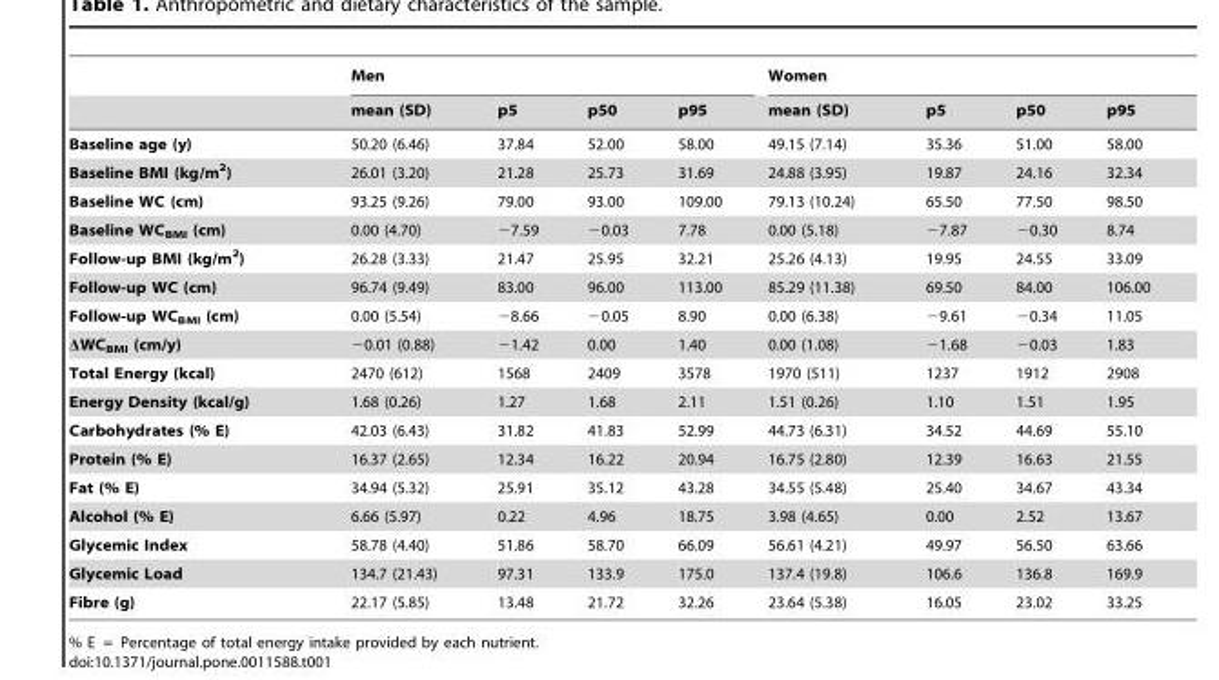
<table><thead><tr><td rowspan="2"></td><td colspan="4">Men</td><td colspan="4">Women</td></tr><tr><td>mean (SD)</td><td>p5</td><td>p50</td><td>p95</td><td>mean (SD)</td><td>p5</td><td>p50</td><td>p95</td></tr></thead><tbody><tr><td>Baseline age (y)</td><td>50.20 (6.46)</td><td>37.84</td><td>52.00</td><td>58.00</td><td>49.15 (7.14)</td><td>35.36</td><td>51.00</td><td>58.00</td></tr><tr><td>Baseline BMI (kg/m<sup>2</sup>)</td><td>26.01 (3.20)</td><td>21.28</td><td>25.73</td><td>31.69</td><td>24.88 (3.95)</td><td>19.87</td><td>24.16</td><td>32.34</td></tr><tr><td>Baseline WC (cm)</td><td>93.25 (9.26)</td><td>79.00</td><td>93.00</td><td>109.00</td><td>79.13 (10.24)</td><td>65.50</td><td>77.50</td><td>98.50</td></tr><tr><td>Baseline WC<sub>BMI</sub> (cm)</td><td>0.00 (4.70)</td><td>−7.59</td><td>−0.03</td><td>7.78</td><td>0.00 (5.18)</td><td>−7.87</td><td>−0.30</td><td>8.74</td></tr><tr><td>Follow-up BMI (kg/m<sup>2</sup>)</td><td>26.28 (3.33)</td><td>21.47</td><td>25.95</td><td>32.21</td><td>25.26 (4.13)</td><td>19.95</td><td>24.55</td><td>33.09</td></tr><tr><td>Follow-up WC (cm)</td><td>96.74 (9.49)</td><td>83.00</td><td>96.00</td><td>113.00</td><td>85.29 (11.38)</td><td>69.50</td><td>84.00</td><td>106.00</td></tr><tr><td>Follow-up WC<sub>BMI</sub> (cm)</td><td>0.00 (5.54)</td><td>−8.66</td><td>−0.05</td><td>8.90</td><td>0.00 (6.38)</td><td>−9.61</td><td>−0.34</td><td>11.05</td></tr><tr><td>ΔWC<sub>BMI</sub> (cm/y)</td><td>−0.01 (0.88)</td><td>−1.42</td><td>0.00</td><td>1.40</td><td>0.00 (1.08)</td><td>−1.68</td><td>−0.03</td><td>1.83</td></tr><tr><td>Total Energy (kcal)</td><td>2470 (612)</td><td>1568</td><td>2409</td><td>3578</td><td>1970 (511)</td><td>1237</td><td>1912</td><td>2908</td></tr><tr><td>Energy Density (kcal/g)</td><td>1.68 (0.26)</td><td>1.27</td><td>1.68</td><td>2.11</td><td>1.51 (0.26)</td><td>1.10</td><td>1.51</td><td>1.95</td></tr><tr><td>Carbohydrates (% E)</td><td>42.03 (6.43)</td><td>31.82</td><td>41.83</td><td>52.99</td><td>44.73 (6.31)</td><td>34.52</td><td>44.69</td><td>55.10</td></tr><tr><td>Protein (% E)</td><td>16.37 (2.65)</td><td>12.34</td><td>16.22</td><td>20.94</td><td>16.75 (2.80)</td><td>12.39</td><td>16.63</td><td>21.55</td></tr><tr><td>Fat (% E)</td><td>34.94 (5.32)</td><td>25.91</td><td>35.12</td><td>43.28</td><td>34.55 (5.48)</td><td>25.40</td><td>34.67</td><td>43.34</td></tr><tr><td>Alcohol (% E)</td><td>6.66 (5.97)</td><td>0.22</td><td>4.96</td><td>18.75</td><td>3.98 (4.65)</td><td>0.00</td><td>2.52</td><td>13.67</td></tr><tr><td>Glycemic Index</td><td>58.78 (4.40)</td><td>51.86</td><td>58.70</td><td>66.09</td><td>56.61 (4.21)</td><td>49.97</td><td>56.50</td><td>63.66</td></tr><tr><td>Glycemic Load</td><td>134.7 (21.43)</td><td>97.31</td><td>133.9</td><td>175.0</td><td>137.4 (19.8)</td><td>106.6</td><td>136.8</td><td>169.9</td></tr><tr><td>Fibre (g)</td><td>22.17 (5.85)</td><td>13.48</td><td>21.72</td><td>32.26</td><td>23.64 (5.38)</td><td>16.05</td><td>23.02</td><td>33.25</td></tr></tbody></table>